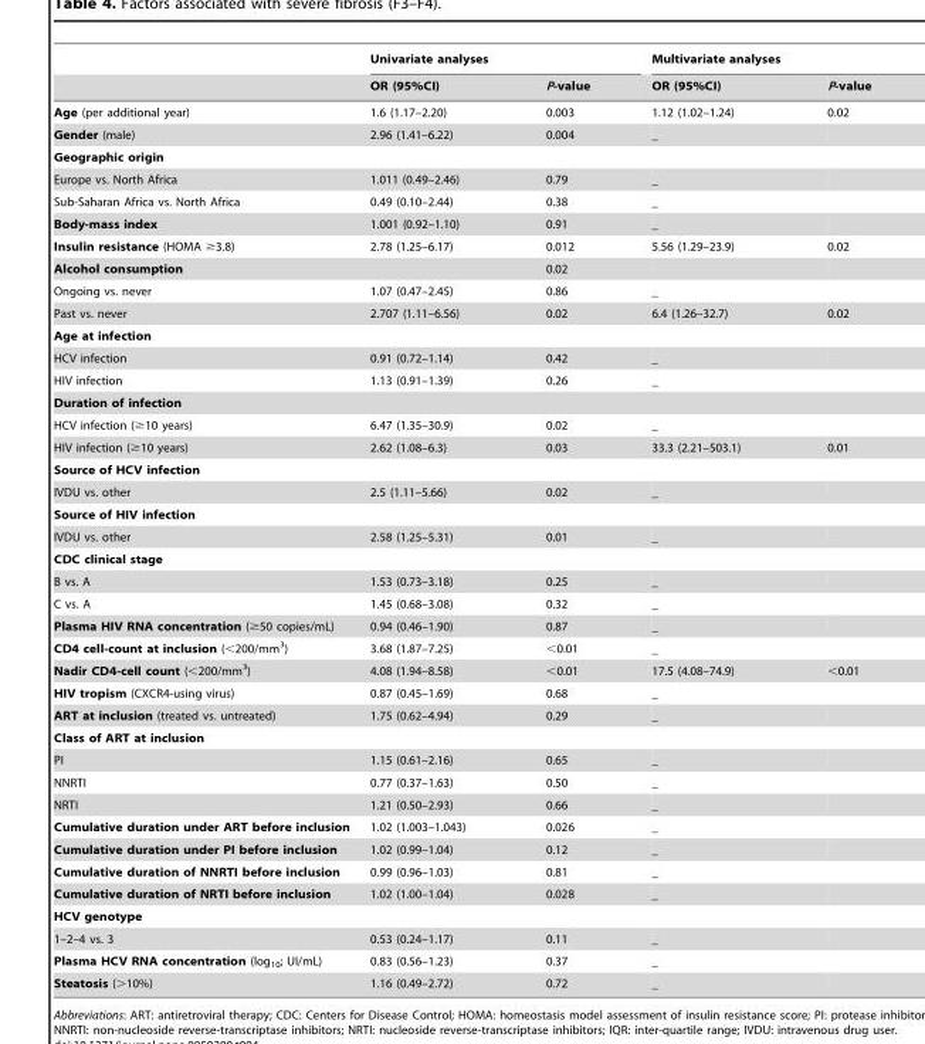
<table><thead><tr><td rowspan="2"></td><td colspan="2">Univariate analyses</td><td colspan="2">Multivariate analyses</td></tr><tr><td>OR (95%CI)</td><td>P-value</td><td>OR (95%CI)</td><td>P-value</td></tr></thead><tbody><tr><td>Age (per additional year)</td><td>1.6 (1.17–2.20)</td><td>0.003</td><td>1.12 (1.02–1.24)</td><td>0.02</td></tr><tr><td>Gender (male)</td><td>2.96 (1.41–6.22)</td><td>0.004</td><td>_</td><td></td></tr><tr><td colspan="5">Geographic origin</td></tr><tr><td>Europe vs. North Africa</td><td>1.011 (0.49–2.46)</td><td>0.79</td><td>_</td><td></td></tr><tr><td>Sub-Saharan Africa vs. North Africa</td><td>0.49 (0.10–2.44)</td><td>0.38</td><td>_</td><td></td></tr><tr><td>Body-mass index</td><td>1.001 (0.92–1.10)</td><td>0.91</td><td>_</td><td></td></tr><tr><td>Insulin resistance (HOMA ≥3.8)</td><td>2.78 (1.25–6.17)</td><td>0.012</td><td>5.56 (1.29–23.9)</td><td>0.02</td></tr><tr><td>Alcohol consumption</td><td></td><td>0.02</td><td></td><td></td></tr><tr><td>Ongoing vs. never</td><td>1.07 (0.47–2.45)</td><td>0.86</td><td>_</td><td></td></tr><tr><td>Past vs. never</td><td>2.707 (1.11–6.56)</td><td>0.02</td><td>6.4 (1.26–32.7)</td><td>0.02</td></tr><tr><td colspan="5">Age at infection</td></tr><tr><td>HCV infection</td><td>0.91 (0.72–1.14)</td><td>0.42</td><td>_</td><td></td></tr><tr><td>HIV infection</td><td>1.13 (0.91–1.39)</td><td>0.26</td><td>_</td><td></td></tr><tr><td colspan="5">Duration of infection</td></tr><tr><td>HCV infection (≥10 years)</td><td>6.47 (1.35–30.9)</td><td>0.02</td><td>_</td><td></td></tr><tr><td>HIV infection (≥10 years)</td><td>2.62 (1.08–6.3)</td><td>0.03</td><td>33.3 (2.21–503.1)</td><td>0.01</td></tr><tr><td colspan="5">Source of HCV infection</td></tr><tr><td>IVDU vs. other</td><td>2.5 (1.11–5.66)</td><td>0.02</td><td>_</td><td></td></tr><tr><td colspan="5">Source of HIV infection</td></tr><tr><td>IVDU vs. other</td><td>2.58 (1.25–5.31)</td><td>0.01</td><td>_</td><td></td></tr><tr><td colspan="5">CDC clinical stage</td></tr><tr><td>B vs. A</td><td>1.53 (0.73–3.18)</td><td>0.25</td><td>_</td><td></td></tr><tr><td>C vs. A</td><td>1.45 (0.68–3.08)</td><td>0.32</td><td>_</td><td></td></tr><tr><td>Plasma HIV RNA concentration (≥50 copies/mL)</td><td>0.94 (0.46–1.90)</td><td>0.87</td><td>_</td><td></td></tr><tr><td>CD4 cell-count at inclusion (&lt;200/mm<sup>3</sup>)</td><td>3.68 (1.87–7.25)</td><td>&lt;0.01</td><td>_</td><td></td></tr><tr><td>Nadir CD4-cell count (&lt;200/mm<sup>3</sup>)</td><td>4.08 (1.94–8.58)</td><td>&lt;0.01</td><td>17.5 (4.08–74.9)</td><td>&lt;0.01</td></tr><tr><td>HIV tropism (CXCR4-using virus)</td><td>0.87 (0.45–1.69)</td><td>0.68</td><td>_</td><td></td></tr><tr><td>ART at inclusion (treated vs. untreated)</td><td>1.75 (0.62–4.94)</td><td>0.29</td><td>_</td><td></td></tr><tr><td colspan="5">Class of ART at inclusion</td></tr><tr><td>PI</td><td>1.15 (0.61–2.16)</td><td>0.65</td><td>_</td><td></td></tr><tr><td>NNRTI</td><td>0.77 (0.37–1.63)</td><td>0.50</td><td>_</td><td></td></tr><tr><td>NRTI</td><td>1.21 (0.50–2.93)</td><td>0.66</td><td>_</td><td></td></tr><tr><td>Cumulative duration under ART before inclusion</td><td>1.02 (1.003–1.043)</td><td>0.026</td><td>_</td><td></td></tr><tr><td>Cumulative duration under PI before inclusion</td><td>1.02 (0.99–1.04)</td><td>0.12</td><td>_</td><td></td></tr><tr><td>Cumulative duration of NNRTI before inclusion</td><td>0.99 (0.96–1.03)</td><td>0.81</td><td>_</td><td></td></tr><tr><td>Cumulative duration of NRTI before inclusion</td><td>1.02 (1.00–1.04)</td><td>0.028</td><td>_</td><td></td></tr><tr><td colspan="5">HCV genotype</td></tr><tr><td>1–2–4 vs. 3</td><td>0.53 (0.24–1.17)</td><td>0.11</td><td>_</td><td></td></tr><tr><td>Plasma HCV RNA concentration (log<sub>10</sub>; UI/mL)</td><td>0.83 (0.56–1.23)</td><td>0.37</td><td>_</td><td></td></tr><tr><td>Steatosis (&gt;10%)</td><td>1.16 (0.49–2.72)</td><td>0.72</td><td>_</td><td></td></tr></tbody></table>